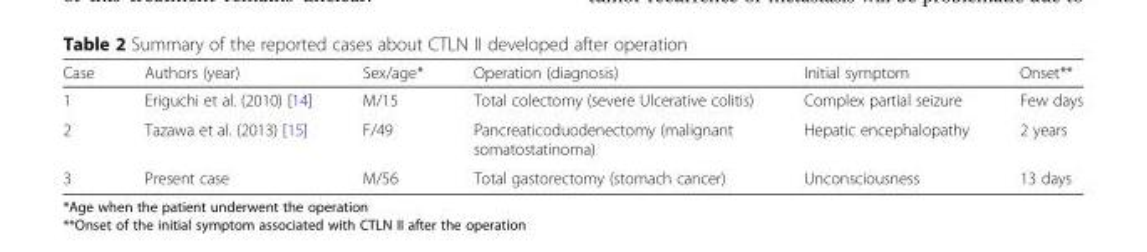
<table><thead><tr><td>Case</td><td>Authors (year)</td><td>Sex/age*</td><td>Operation (diagnosis)</td><td>Initial symptom</td><td>Onset**</td></tr></thead><tbody><tr><td>1</td><td>Eriguchi et al. (2010) [14]</td><td>M/15</td><td>Total colectomy (severe Ulcerative colitis)</td><td>Complex partial seizure</td><td>Few days</td></tr><tr><td>2</td><td>Tazawa et al. (2013) [15]</td><td>F/49</td><td>Pancreaticoduodenectomy (malignant somatostatinoma)</td><td>Hepatic encephalopathy</td><td>2 years</td></tr><tr><td>3</td><td>Present case</td><td>M/56</td><td>Total gastorectomy (stomach cancer)</td><td>Unconsciousness</td><td>13 days</td></tr></tbody></table>